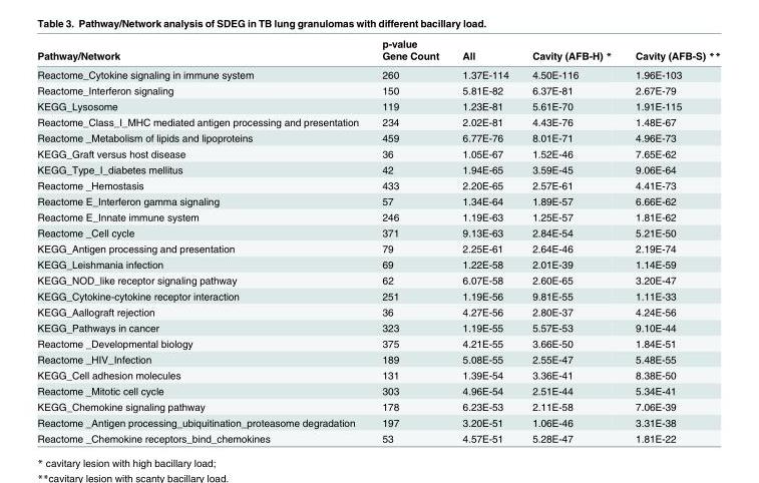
<table><thead><tr><td rowspan="2">Pathway/Network</td><td rowspan="2">p-value Gene Count</td><td rowspan="2">All</td><td rowspan="2">Cavity (AFB-H) *</td><td rowspan="2">Cavity (AFB-S) **</td></tr><tr></tr></thead><tbody><tr><td>Reactome_Cytokine signaling in immune system</td><td>260</td><td>1.37E-114</td><td>4.50E-116</td><td>1.96E-103</td></tr><tr><td>Reactome_Interferon signaling</td><td>150</td><td>5.81E-82</td><td>6.37E-81</td><td>2.67E-79</td></tr><tr><td>KEGG_Lysosome</td><td>119</td><td>1.23E-81</td><td>5.61E-70</td><td>1.91E-115</td></tr><tr><td>Reactome_Class_I_MHC mediated antigen processing and presentation</td><td>234</td><td>2.02E-81</td><td>4.43E-76</td><td>1.48E-67</td></tr><tr><td>Reactome _Metabolism of lipids and lipoproteins</td><td>459</td><td>6.77E-76</td><td>8.01E-71</td><td>4.96E-73</td></tr><tr><td>KEGG_Graft versus host disease</td><td>36</td><td>1.05E-67</td><td>1.52E-46</td><td>7.65E-62</td></tr><tr><td>KEGG_Type_I_diabetes mellitus</td><td>42</td><td>1.94E-65</td><td>3.59E-45</td><td>9.06E-64</td></tr><tr><td>Reactome _Hemostasis</td><td>433</td><td>2.20E-65</td><td>2.57E-61</td><td>4.41E-73</td></tr><tr><td>Reactome E_Interferon gamma signaling</td><td>57</td><td>1.34E-64</td><td>1.89E-57</td><td>6.66E-62</td></tr><tr><td>Reactome E_Innate immune system</td><td>246</td><td>1.19E-63</td><td>1.25E-57</td><td>1.81E-62</td></tr><tr><td>Reactome _Cell cycle</td><td>371</td><td>9.13E-63</td><td>2.84E-54</td><td>5.21E-50</td></tr><tr><td>KEGG_Antigen processing and presentation</td><td>79</td><td>2.25E-61</td><td>2.64E-46</td><td>2.19E-74</td></tr><tr><td>KEGG_Leishmania infection</td><td>69</td><td>1.22E-58</td><td>2.01E-39</td><td>1.14E-59</td></tr><tr><td>KEGG_NOD_like receptor signaling pathway</td><td>62</td><td>6.07E-58</td><td>2.60E-65</td><td>3.20E-47</td></tr><tr><td>KEGG_Cytokine-cytokine receptor interaction</td><td>251</td><td>1.19E-56</td><td>9.81E-55</td><td>1.11E-33</td></tr><tr><td>KEGG_Aallograft rejection</td><td>36</td><td>4.27E-56</td><td>2.80E-37</td><td>4.24E-56</td></tr><tr><td>KEGG_Pathways in cancer</td><td>323</td><td>1.19E-55</td><td>5.57E-53</td><td>9.10E-44</td></tr><tr><td>Reactome _Developmental biology</td><td>375</td><td>4.21E-55</td><td>3.66E-50</td><td>1.84E-51</td></tr><tr><td>Reactome _HIV_Infection</td><td>189</td><td>5.08E-55</td><td>2.55E-47</td><td>5.48E-55</td></tr><tr><td>KEGG_Cell adhesion molecules</td><td>131</td><td>1.39E-54</td><td>3.36E-41</td><td>8.38E-50</td></tr><tr><td>Reactome _Mitotic cell cycle</td><td>303</td><td>4.96E-54</td><td>2.51E-44</td><td>5.34E-41</td></tr><tr><td>KEGG_Chemokine signaling pathway</td><td>178</td><td>6.23E-53</td><td>2.11E-58</td><td>7.06E-39</td></tr><tr><td>Reactome _Antigen processing_ubiquitination_proteasome degradation</td><td>197</td><td>3.20E-51</td><td>1.06E-46</td><td>3.31E-38</td></tr><tr><td>Reactome _Chemokine receptors_bind_chemokines</td><td>53</td><td>4.57E-51</td><td>5.28E-47</td><td>1.81E-22</td></tr></tbody></table>